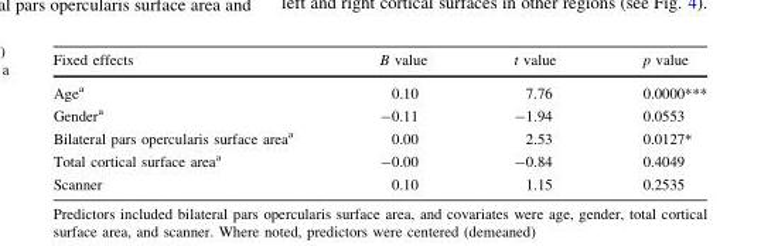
<table><thead><tr><td>Fixed effects</td><td>B value</td><td>t value</td><td>p value</td></tr></thead><tbody><tr><td>Age<sup>a</sup></td><td>0.10</td><td>7.76</td><td>0.0000***</td></tr><tr><td>Gender<sup>a</sup></td><td>-0.11</td><td>-1.94</td><td>0.0553</td></tr><tr><td>Bilateral pars opercularis surface area<sup>a</sup></td><td>0.00</td><td>2.53</td><td>0.0127*</td></tr><tr><td>Total cortical surface area<sup>a</sup></td><td>-0.00</td><td>-0.84</td><td>0.4049</td></tr><tr><td>Scanner</td><td>0.10</td><td>1.15</td><td>0.2535</td></tr></tbody></table>